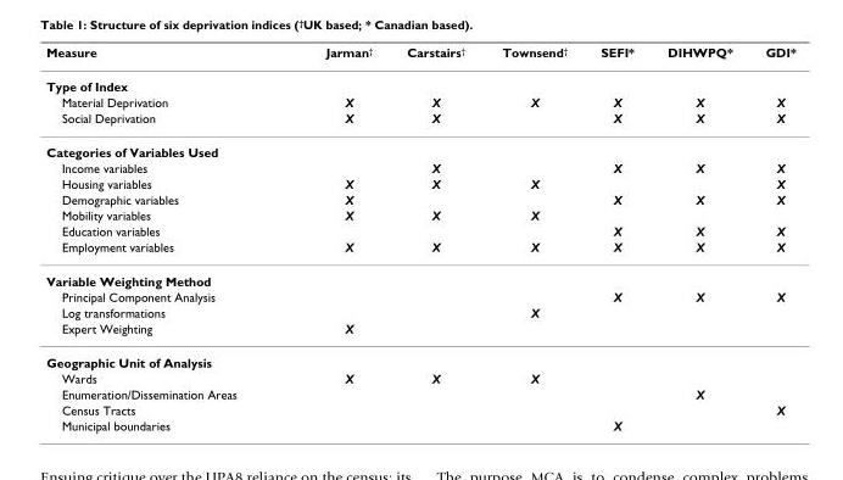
<table><thead><tr><td>Measure</td><td>Jarman<sup>†</sup></td><td>Carstairs<sup>†</sup></td><td>Townsend<sup>†</sup></td><td>SEFI*</td><td>DIHWPQ*</td><td>GDI*</td></tr></thead><tbody><tr><td colspan="7">Type of Index</td></tr><tr><td>Material Deprivation</td><td>X</td><td>X</td><td>X</td><td>X</td><td>X</td><td>X</td></tr><tr><td>Social Deprivation</td><td>X</td><td>X</td><td></td><td>X</td><td>X</td><td>X</td></tr><tr><td colspan="7">Categories of Variables Used</td></tr><tr><td>Income variables</td><td></td><td>X</td><td></td><td>X</td><td>X</td><td>X</td></tr><tr><td>Housing variables</td><td>X</td><td>X</td><td>X</td><td></td><td></td><td>X</td></tr><tr><td>Demographic variables</td><td>X</td><td></td><td></td><td>X</td><td>X</td><td>X</td></tr><tr><td>Mobility variables</td><td>X</td><td>X</td><td>X</td><td></td><td></td><td></td></tr><tr><td>Education variables</td><td></td><td></td><td></td><td>X</td><td>X</td><td>X</td></tr><tr><td>Employment variables</td><td>X</td><td>X</td><td>X</td><td>X</td><td>X</td><td>X</td></tr><tr><td colspan="7">Variable Weighting Method</td></tr><tr><td>Principal Component Analysis</td><td></td><td></td><td></td><td>X</td><td>X</td><td>X</td></tr><tr><td>Log transformations</td><td></td><td></td><td>X</td><td></td><td></td><td></td></tr><tr><td>Expert Weighting</td><td>X</td><td></td><td></td><td></td><td></td><td></td></tr><tr><td colspan="7">Geographic Unit of Analysis</td></tr><tr><td>Wards</td><td>X</td><td>X</td><td>X</td><td></td><td></td><td></td></tr><tr><td>Enumeration/Dissemination Areas</td><td></td><td></td><td></td><td></td><td>X</td><td></td></tr><tr><td>Census Tracts</td><td></td><td></td><td></td><td></td><td></td><td>X</td></tr><tr><td>Municipal boundaries</td><td></td><td></td><td></td><td>X</td><td></td><td></td></tr></tbody></table>